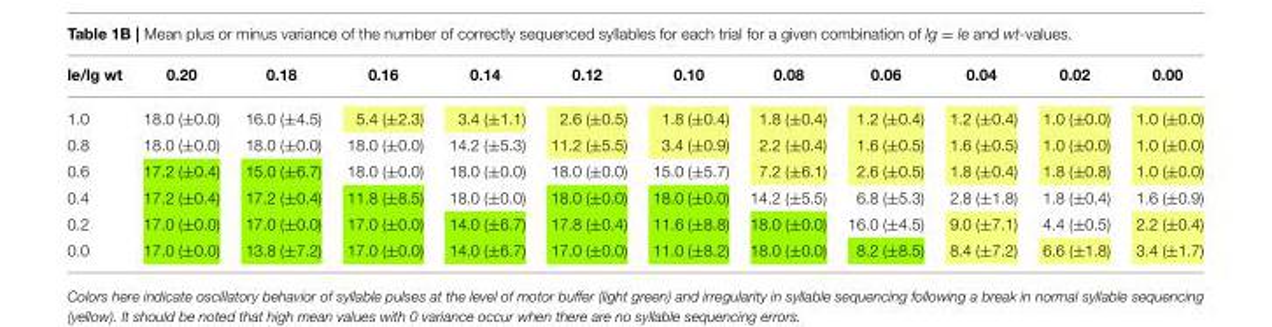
<table><thead><tr><td>le/lg wt</td><td>0.20</td><td>0.18</td><td>0.16</td><td>0.14</td><td>0.12</td><td>0.10</td><td>0.08</td><td>0.06</td><td>0.04</td><td>0.02</td><td>0.00</td></tr></thead><tbody><tr><td>1.0</td><td>18.0 (±0.0)</td><td>16.0 (±4.5)</td><td>5.4 (±2.3)</td><td>3.4 (±1.1)</td><td>2.6 (±0.5)</td><td>1.8 (±0.4)</td><td>1.8 (±0.4)</td><td>1.2 (±0.4)</td><td>1.2 (±0.4)</td><td>1.0 (±0.0)</td><td>1.0 (±0.0)</td></tr><tr><td>0.8</td><td>18.0 (±0.0)</td><td>18.0 (±0.0)</td><td>18.0 (±0.0)</td><td>14.2 (±5.3)</td><td>11.2 (±5.5)</td><td>3.4 (±0.9)</td><td>2.2 (±0.4)</td><td>1.6 (±0.5)</td><td>1.6 (±0.5)</td><td>1.0 (±0.0)</td><td>1.0 (±0.0)</td></tr><tr><td>0.6</td><td>17.2 (±0.4)</td><td>15.0 (±6.7)</td><td>18.0 (±0.0)</td><td>18.0 (±0.0)</td><td>18.0 (±0.0)</td><td>15.0 (±5.7)</td><td>7.2 (±6.1)</td><td>2.6 (±0.5)</td><td>1.8 (±0.4)</td><td>1.8 (±0.8)</td><td>1.0 (±0.0)</td></tr><tr><td>0.4</td><td>17.2 (±0.4)</td><td>17.2 (±0.4)</td><td>11.8 (±8.5)</td><td>18.0 (±0.0)</td><td>18.0 (±0.0)</td><td>18.0 (±0.0)</td><td>14.2 (±5.5)</td><td>6.8 (±5.3)</td><td>2.8 (±1.8)</td><td>1.8 (±0.4)</td><td>1.6 (±0.9)</td></tr><tr><td>0.2</td><td>17.0 (±0.0)</td><td>17.0 (±0.0)</td><td>17.0 (±0.0)</td><td>14.0 (±6.7)</td><td>17.8 (±0.4)</td><td>11.6 (±8.8)</td><td>18.0 (±0.0)</td><td>16.0 (±4.5)</td><td>9.0 (±7.1)</td><td>4.4 (±0.5)</td><td>2.2 (±0.4)</td></tr><tr><td>0.0</td><td>17.0 (±0.0)</td><td>13.8 (±7.2)</td><td>17.0 (±0.0)</td><td>14.0 (±6.7)</td><td>17.0 (±0.0)</td><td>11.0 (±8.2)</td><td>18.0 (±0.0)</td><td>8.2 (±8.5)</td><td>8.4 (±7.2)</td><td>6.6 (±1.8)</td><td>3.4 (±1.7)</td></tr></tbody></table>